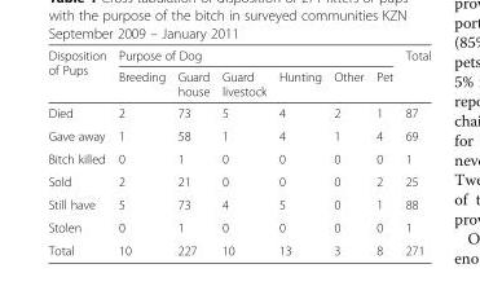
<table><thead><tr><td rowspan="2">Disposition of Pups</td><td colspan="6">Purpose of Dog</td><td rowspan="2">Total</td></tr><tr><td>Breeding</td><td>Guard house</td><td>Guard livestock</td><td>Hunting</td><td>Other</td><td>Pet</td></tr></thead><tbody><tr><td>Died</td><td>2</td><td>73</td><td>5</td><td>4</td><td>2</td><td>1</td><td>87</td></tr><tr><td>Gave away</td><td>1</td><td>58</td><td>1</td><td>4</td><td>1</td><td>4</td><td>69</td></tr><tr><td>Bitch killed</td><td>0</td><td>1</td><td>0</td><td>0</td><td>0</td><td>0</td><td>1</td></tr><tr><td>Sold</td><td>2</td><td>21</td><td>0</td><td>0</td><td>0</td><td>2</td><td>25</td></tr><tr><td>Still have</td><td>5</td><td>73</td><td>4</td><td>5</td><td>0</td><td>1</td><td>88</td></tr><tr><td>Stolen</td><td>0</td><td>1</td><td>0</td><td>0</td><td>0</td><td>0</td><td>1</td></tr><tr><td>Total</td><td>10</td><td>227</td><td>10</td><td>13</td><td>3</td><td>8</td><td>271</td></tr></tbody></table>